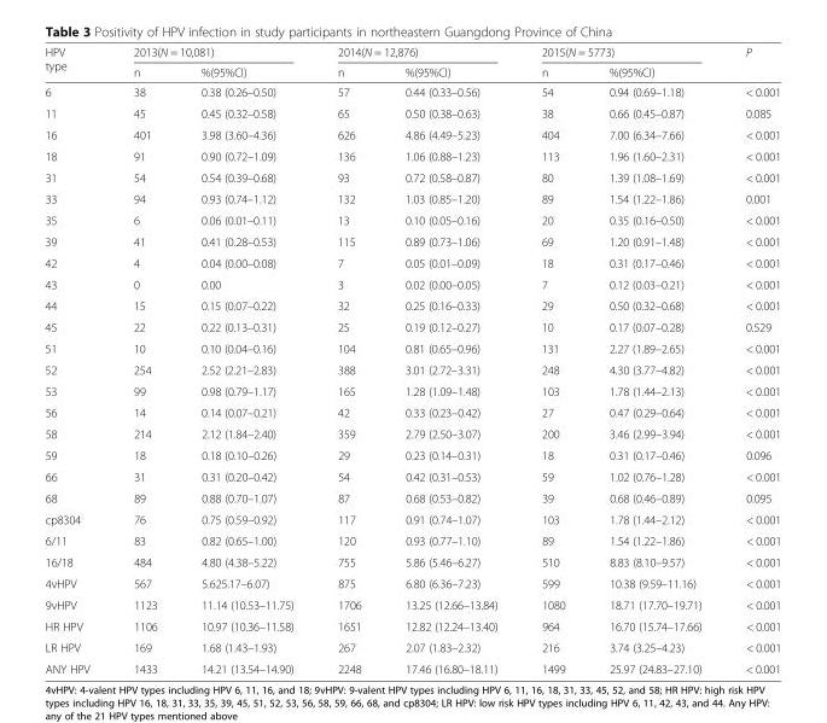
<table><thead><tr><td rowspan="2">HPV type</td><td colspan="2">2013(N = 10,081)</td><td colspan="2">2014(N = 12,876)</td><td colspan="2">2015(N = 5773)</td><td rowspan="2">P</td></tr><tr><td>n</td><td>%(95%CI)</td><td>n</td><td>%(95%CI)</td><td>n</td><td>%(95%CI)</td></tr></thead><tbody><tr><td>6</td><td>38</td><td>0.38 (0.26–0.50)</td><td>57</td><td>0.44 (0.33–0.56)</td><td>54</td><td>0.94 (0.69–1.18)</td><td>&lt; 0.001</td></tr><tr><td>11</td><td>45</td><td>0.45 (0.32–0.58)</td><td>65</td><td>0.50 (0.38–0.63)</td><td>38</td><td>0.66 (0.45–0.87)</td><td>0.085</td></tr><tr><td>16</td><td>401</td><td>3.98 (3.60–4.36)</td><td>626</td><td>4.86 (4.49–5.23)</td><td>404</td><td>7.00 (6.34–7.66)</td><td>&lt; 0.001</td></tr><tr><td>18</td><td>91</td><td>0.90 (0.72–1.09)</td><td>136</td><td>1.06 (0.88–1.23)</td><td>113</td><td>1.96 (1.60–2.31)</td><td>&lt; 0.001</td></tr><tr><td>31</td><td>54</td><td>0.54 (0.39–0.68)</td><td>93</td><td>0.72 (0.58–0.87)</td><td>80</td><td>1.39 (1.08–1.69)</td><td>&lt; 0.001</td></tr><tr><td>33</td><td>94</td><td>0.93 (0.74–1.12)</td><td>132</td><td>1.03 (0.85–1.20)</td><td>89</td><td>1.54 (1.22–1.86)</td><td>0.001</td></tr><tr><td>35</td><td>6</td><td>0.06 (0.01–0.11)</td><td>13</td><td>0.10 (0.05–0.16)</td><td>20</td><td>0.35 (0.16–0.50)</td><td>&lt; 0.001</td></tr><tr><td>39</td><td>41</td><td>0.41 (0.28–0.53)</td><td>115</td><td>0.89 (0.73–1.06)</td><td>69</td><td>1.20 (0.91–1.48)</td><td>&lt; 0.001</td></tr><tr><td>42</td><td>4</td><td>0.04 (0.00–0.08)</td><td>7</td><td>0.05 (0.01–0.09)</td><td>18</td><td>0.31 (0.17–0.46)</td><td>&lt; 0.001</td></tr><tr><td>43</td><td>0</td><td>0.00</td><td>3</td><td>0.02 (0.00–0.05)</td><td>7</td><td>0.12 (0.03–0.21)</td><td>&lt; 0.001</td></tr><tr><td>44</td><td>15</td><td>0.15 (0.07–0.22)</td><td>32</td><td>0.25 (0.16–0.33)</td><td>29</td><td>0.50 (0.32–0.68)</td><td>&lt; 0.001</td></tr><tr><td>45</td><td>22</td><td>0.22 (0.13–0.31)</td><td>25</td><td>0.19 (0.12–0.27)</td><td>10</td><td>0.17 (0.07–0.28)</td><td>0.529</td></tr><tr><td>51</td><td>10</td><td>0.10 (0.04–0.16)</td><td>104</td><td>0.81 (0.65–0.96)</td><td>131</td><td>2.27 (1.89–2.65)</td><td>&lt; 0.001</td></tr><tr><td>52</td><td>254</td><td>2.52 (2.21–2.83)</td><td>388</td><td>3.01 (2.72–3.31)</td><td>248</td><td>4.30 (3.77–4.82)</td><td>&lt; 0.001</td></tr><tr><td>53</td><td>99</td><td>0.98 (0.79–1.17)</td><td>165</td><td>1.28 (1.09–1.48)</td><td>103</td><td>1.78 (1.44–2.13)</td><td>&lt; 0.001</td></tr><tr><td>56</td><td>14</td><td>0.14 (0.07–0.21)</td><td>42</td><td>0.33 (0.23–0.42)</td><td>27</td><td>0.47 (0.29–0.64)</td><td>&lt; 0.001</td></tr><tr><td>58</td><td>214</td><td>2.12 (1.84–2.40)</td><td>359</td><td>2.79 (2.50–3.07)</td><td>200</td><td>3.46 (2.99–3.94)</td><td>&lt; 0.001</td></tr><tr><td>59</td><td>18</td><td>0.18 (0.10–0.26)</td><td>29</td><td>0.23 (0.14–0.31)</td><td>18</td><td>0.31 (0.17–0.46)</td><td>0.096</td></tr><tr><td>66</td><td>31</td><td>0.31 (0.20–0.42)</td><td>54</td><td>0.42 (0.31–0.53)</td><td>59</td><td>1.02 (0.76–1.28)</td><td>&lt; 0.001</td></tr><tr><td>68</td><td>89</td><td>0.88 (0.70–1.07)</td><td>87</td><td>0.68 (0.53–0.82)</td><td>39</td><td>0.68 (0.46–0.89)</td><td>0.095</td></tr><tr><td>cp8304</td><td>76</td><td>0.75 (0.59–0.92)</td><td>117</td><td>0.91 (0.74–1.07)</td><td>103</td><td>1.78 (1.44–2.12)</td><td>&lt; 0.001</td></tr><tr><td>6/11</td><td>83</td><td>0.82 (0.65–1.00)</td><td>120</td><td>0.93 (0.77–1.10)</td><td>89</td><td>1.54 (1.22–1.86)</td><td>&lt; 0.001</td></tr><tr><td>16/18</td><td>484</td><td>4.80 (4.38–5.22)</td><td>755</td><td>5.86 (5.46–6.27)</td><td>510</td><td>8.83 (8.10–9.57)</td><td>&lt; 0.001</td></tr><tr><td>4vHPV</td><td>567</td><td>5.625.17–6.07)</td><td>875</td><td>6.80 (6.36–7.23)</td><td>599</td><td>10.38 (9.59–11.16)</td><td>&lt; 0.001</td></tr><tr><td>9vHPV</td><td>1123</td><td>11.14 (10.53–11.75)</td><td>1706</td><td>13.25 (12.66–13.84)</td><td>1080</td><td>18.71 (17.70–19.71)</td><td>&lt; 0.001</td></tr><tr><td>HR HPV</td><td>1106</td><td>10.97 (10.36–11.58)</td><td>1651</td><td>12.82 (12.24–13.40)</td><td>964</td><td>16.70 (15.74–17.66)</td><td>&lt; 0.001</td></tr><tr><td>LR HPV</td><td>169</td><td>1.68 (1.43–1.93)</td><td>267</td><td>2.07 (1.83–2.32)</td><td>216</td><td>3.74 (3.25–4.23)</td><td>&lt; 0.001</td></tr><tr><td>ANY HPV</td><td>1433</td><td>14.21 (13.54–14.90)</td><td>2248</td><td>17.46 (16.80–18.11)</td><td>1499</td><td>25.97 (24.83–27.10)</td><td>&lt; 0.001</td></tr></tbody></table>